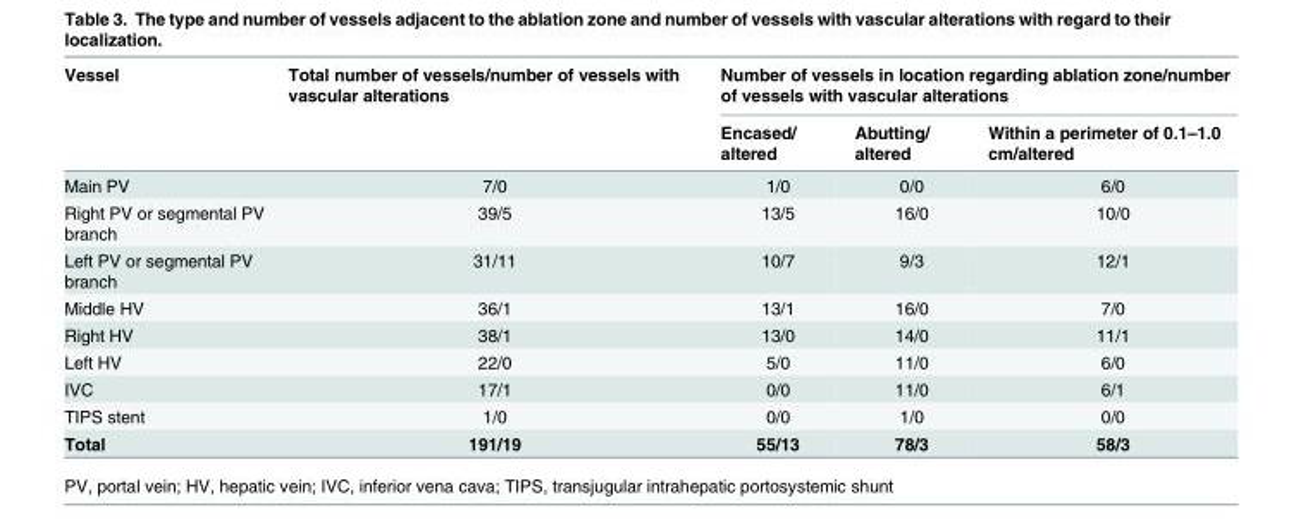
<table><thead><tr><td rowspan="2">Vessel</td><td rowspan="2">Total number of vessels/number of vessels with vascular alterations</td><td colspan="3">Number of vessels in location regarding ablation zone/number of vessels with vascular alterations</td></tr><tr><td>Encased/ altered</td><td>Abutting/ altered</td><td>Within a perimeter of 0.1–1.0 cm/altered</td></tr></thead><tbody><tr><td>Main PV</td><td>7/0</td><td>1/0</td><td>0/0</td><td>6/0</td></tr><tr><td>Right PV or segmental PV branch</td><td>39/5</td><td>13/5</td><td>16/0</td><td>10/0</td></tr><tr><td>Left PV or segmental PV branch</td><td>31/11</td><td>10/7</td><td>9/3</td><td>12/1</td></tr><tr><td>Middle HV</td><td>36/1</td><td>13/1</td><td>16/0</td><td>7/0</td></tr><tr><td>Right HV</td><td>38/1</td><td>13/0</td><td>14/0</td><td>11/1</td></tr><tr><td>Left HV</td><td>22/0</td><td>5/0</td><td>11/0</td><td>6/0</td></tr><tr><td>IVC</td><td>17/1</td><td>0/0</td><td>11/0</td><td>6/1</td></tr><tr><td>TIPS stent</td><td>1/0</td><td>0/0</td><td>1/0</td><td>0/0</td></tr><tr><td>Total</td><td>191/19</td><td>55/13</td><td>78/3</td><td>58/3</td></tr></tbody></table>